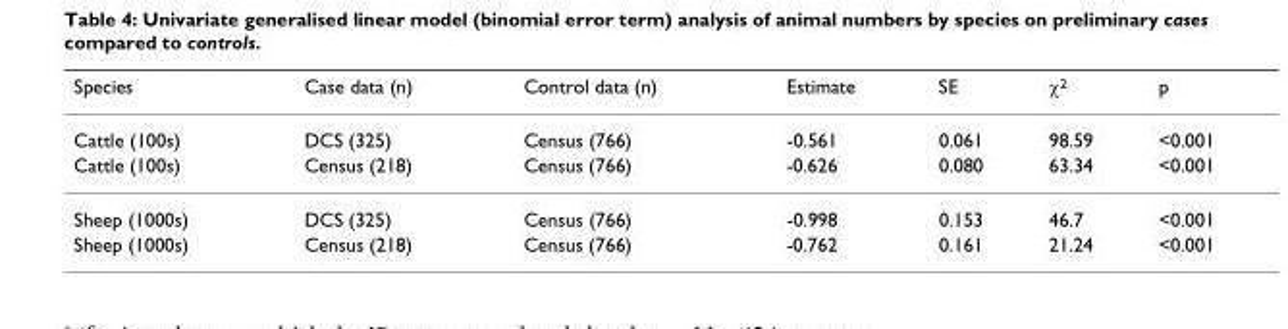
<table><thead><tr><td>Species</td><td>Case data (n)</td><td>Control data (n)</td><td>Estimate</td><td>SE</td><td>χ<sup>2</sup></td><td>p</td></tr></thead><tbody><tr><td>Cattle (100s)</td><td>DCS (325)</td><td>Census (766)</td><td>-0.561</td><td>0.061</td><td>98.59</td><td>&lt;0.001</td></tr><tr><td>Cattle (100s)</td><td>Census (218)</td><td>Census (766)</td><td>-0.626</td><td>0.080</td><td>63.34</td><td>&lt;0.001</td></tr><tr><td>Sheep (1000s)</td><td>DCS (325)</td><td>Census (766)</td><td>-0.998</td><td>0.153</td><td>46.7</td><td>&lt;0.001</td></tr><tr><td>Sheep (1000s)</td><td>Census (218)</td><td>Census (766)</td><td>-0.762</td><td>0.161</td><td>21.24</td><td>&lt;0.001</td></tr></tbody></table>